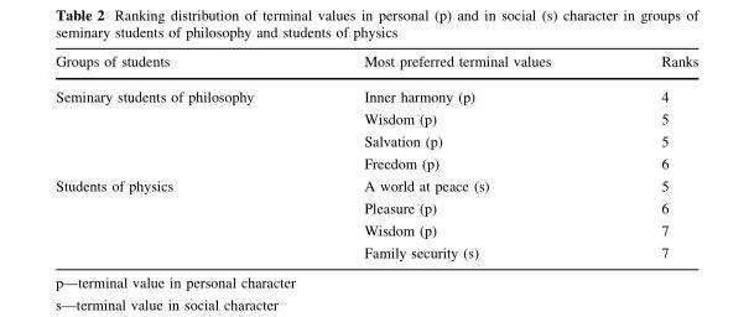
<table><thead><tr><td>Groups of students</td><td>Most preferred terminal values</td><td>Ranks</td></tr></thead><tbody><tr><td rowspan="4">Seminary students of philosophy</td><td>Inner harmony (p)</td><td>4</td></tr><tr><td>Wisdom (p)</td><td>5</td></tr><tr><td>Salvation (p)</td><td>5</td></tr><tr><td>Freedom (p)</td><td>6</td></tr><tr><td rowspan="4">Students of physics</td><td>A world at peace (s)</td><td>5</td></tr><tr><td>Pleasure (p)</td><td>6</td></tr><tr><td>Wisdom (p)</td><td>7</td></tr><tr><td>Family security (s)</td><td>7</td></tr></tbody></table>